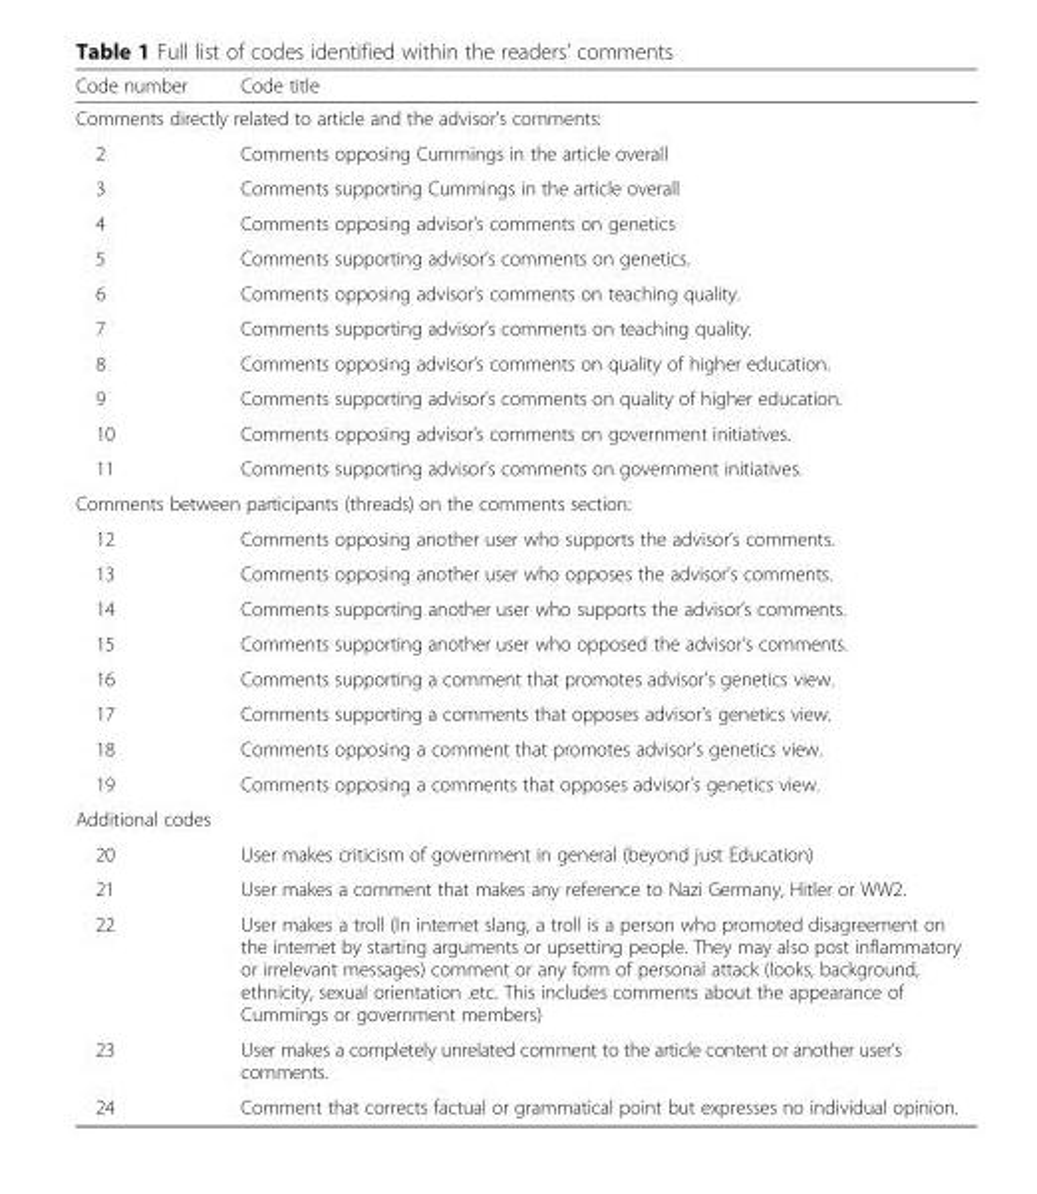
<table><thead><tr><td>Code number</td><td>Code title</td></tr></thead><tbody><tr><td colspan="2">Comments directly related to article and the advisor’s comments:</td></tr><tr><td>2</td><td>Comments opposing Cummings in the article overall</td></tr><tr><td>3</td><td>Comments supporting Cummings in the article overall</td></tr><tr><td>4</td><td>Comments opposing advisor’s comments on genetics</td></tr><tr><td>5</td><td>Comments supporting advisor’s comments on genetics.</td></tr><tr><td>6</td><td>Comments opposing advisor’s comments on teaching quality.</td></tr><tr><td>7</td><td>Comments supporting advisor’s comments on teaching quality.</td></tr><tr><td>8</td><td>Comments opposing advisor’s comments on quality of higher education.</td></tr><tr><td>9</td><td>Comments supporting advisor’s comments on quality of higher education.</td></tr><tr><td>10</td><td>Comments opposing advisor’s comments on government initiatives.</td></tr><tr><td>11</td><td>Comments supporting advisor’s comments on government initiatives.</td></tr><tr><td colspan="2">Comments between participants (threads) on the comments section:</td></tr><tr><td>12</td><td>Comments opposing another user who supports the advisor’s comments.</td></tr><tr><td>13</td><td>Comments opposing another user who opposes the advisor’s comments.</td></tr><tr><td>14</td><td>Comments supporting another user who supports the advisor’s comments.</td></tr><tr><td>15</td><td>Comments supporting another user who opposed the advisor’s comments.</td></tr><tr><td>16</td><td>Comments supporting a comment that promotes advisor’s genetics view.</td></tr><tr><td>17</td><td>Comments supporting a comments that opposes advisor’s genetics view.</td></tr><tr><td>18</td><td>Comments opposing a comment that promotes advisor’s genetics view.</td></tr><tr><td>19</td><td>Comments opposing a comments that opposes advisor’s genetics view.</td></tr><tr><td colspan="2">Additional codes</td></tr><tr><td>20</td><td>User makes criticism of government in general (beyond just Education)</td></tr><tr><td>21</td><td>User makes a comment that makes any reference to Nazi Germany, Hitler or WW2.</td></tr><tr><td>22</td><td>User makes a troll (In internet slang, a troll is a person who promoted disagreement on the internet by starting arguments or upsetting people. They may also post inflammatory or irrelevant messages) comment or any form of personal attack (looks, background, ethnicity, sexual orientation .etc. This includes comments about the appearance of Cummings or government members)</td></tr><tr><td>23</td><td>User makes a completely unrelated comment to the article content or another user’s comments.</td></tr><tr><td>24</td><td>Comment that corrects factual or grammatical point but expresses no individual opinion.</td></tr></tbody></table>